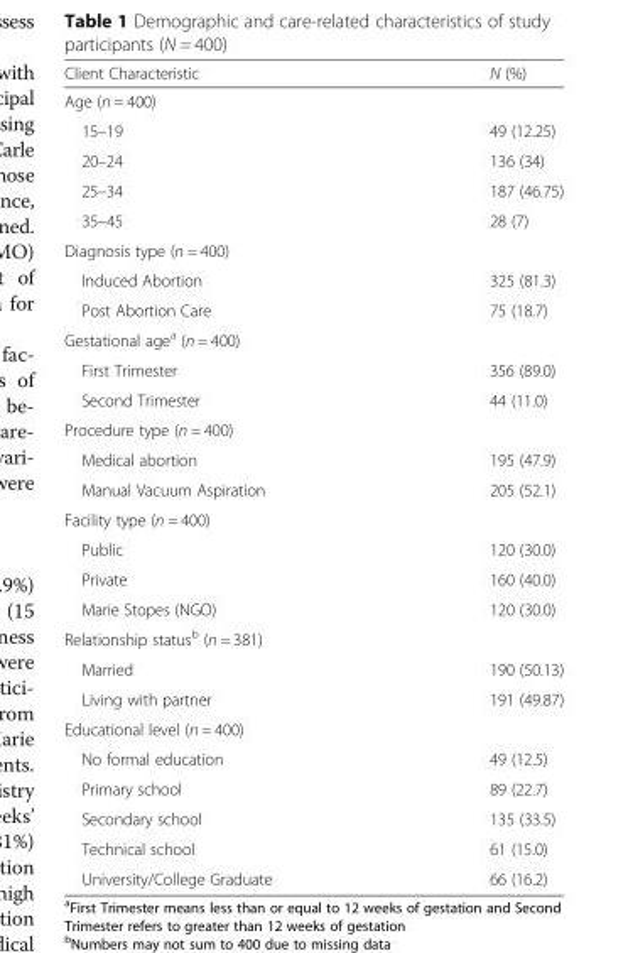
<table><thead><tr><td>Client Characteristic</td><td>N (%)</td></tr></thead><tbody><tr><td colspan="2">Age (n = 400)</td></tr><tr><td>15–19</td><td>49 (12.25)</td></tr><tr><td>20–24</td><td>136 (34)</td></tr><tr><td>25–34</td><td>187 (46.75)</td></tr><tr><td>35–45</td><td>28 (7)</td></tr><tr><td colspan="2">Diagnosis type (n = 400)</td></tr><tr><td>Induced Abortion</td><td>325 (81.3)</td></tr><tr><td>Post Abortion Care</td><td>75 (18.7)</td></tr><tr><td colspan="2">Gestational age<sup>a</sup> (n = 400)</td></tr><tr><td>First Trimester</td><td>356 (89.0)</td></tr><tr><td>Second Trimester</td><td>44 (11.0)</td></tr><tr><td colspan="2">Procedure type (n = 400)</td></tr><tr><td>Medical abortion</td><td>195 (47.9)</td></tr><tr><td>Manual Vacuum Aspiration</td><td>205 (52.1)</td></tr><tr><td colspan="2">Facility type (n = 400)</td></tr><tr><td>Public</td><td>120 (30.0)</td></tr><tr><td>Private</td><td>160 (40.0)</td></tr><tr><td>Marie Stopes (NGO)</td><td>120 (30.0)</td></tr><tr><td colspan="2">Relationship status<sup>b</sup> (n = 381)</td></tr><tr><td>Married</td><td>190 (50.13)</td></tr><tr><td>Living with partner</td><td>191 (49.87)</td></tr><tr><td colspan="2">Educational level (n = 400)</td></tr><tr><td>No formal education</td><td>49 (12.5)</td></tr><tr><td>Primary school</td><td>89 (22.7)</td></tr><tr><td>Secondary school</td><td>135 (33.5)</td></tr><tr><td>Technical school</td><td>61 (15.0)</td></tr><tr><td>University/College Graduate</td><td>66 (16.2)</td></tr></tbody></table>